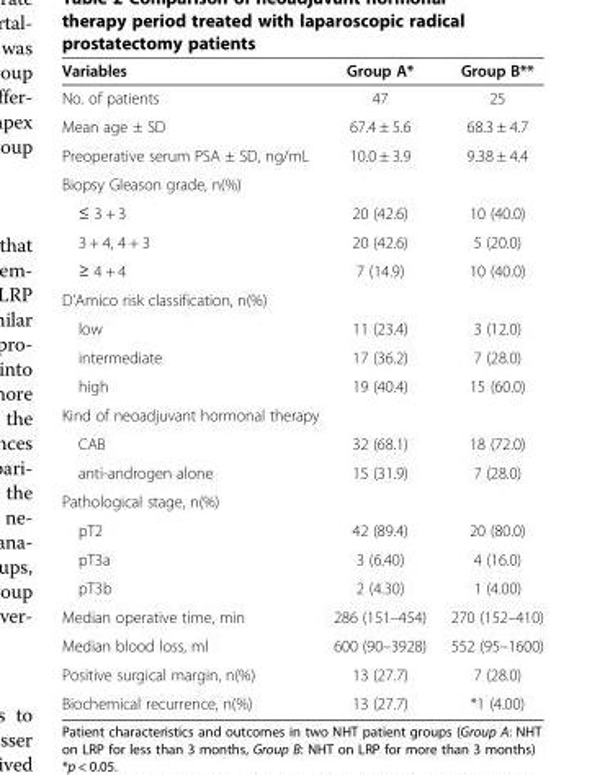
<table><thead><tr><td>Variables</td><td>Group A*</td><td>Group B**</td></tr></thead><tbody><tr><td>No. of patients</td><td>47</td><td>25</td></tr><tr><td>Mean age ± SD</td><td>67.4 ± 5.6</td><td>68.3 ± 4.7</td></tr><tr><td>Preoperative serum PSA ± SD, ng/mL</td><td>10.0 ± 3.9</td><td>9.38 ± 4.4</td></tr><tr><td colspan="3">Biopsy Gleason grade, n(%)</td></tr><tr><td>≤ 3 + 3</td><td>20 (42.6)</td><td>10 (40.0)</td></tr><tr><td>3 + 4, 4 + 3</td><td>20 (42.6)</td><td>5 (20.0)</td></tr><tr><td>≥ 4 + 4</td><td>7 (14.9)</td><td>10 (40.0)</td></tr><tr><td colspan="3">D’Amico risk classification, n(%)</td></tr><tr><td>low</td><td>11 (23.4)</td><td>3 (12.0)</td></tr><tr><td>intermediate</td><td>17 (36.2)</td><td>7 (28.0)</td></tr><tr><td>high</td><td>19 (40.4)</td><td>15 (60.0)</td></tr><tr><td colspan="3">Kind of neoadjuvant hormonal therapy</td></tr><tr><td>CAB</td><td>32 (68.1)</td><td>18 (72.0)</td></tr><tr><td>anti-androgen alone</td><td>15 (31.9)</td><td>7 (28.0)</td></tr><tr><td colspan="3">Pathological stage, n(%)</td></tr><tr><td>pT2</td><td>42 (89.4)</td><td>20 (80.0)</td></tr><tr><td>pT3a</td><td>3 (6.40)</td><td>4 (16.0)</td></tr><tr><td>pT3b</td><td>2 (4.30)</td><td>1 (4.00)</td></tr><tr><td>Median operative time, min</td><td>286 (151–454)</td><td>270 (152–410)</td></tr><tr><td>Median blood loss, ml</td><td>600 (90–3928)</td><td>552 (95–1600)</td></tr><tr><td>Positive surgical margin, n(%)</td><td>13 (27.7)</td><td>7 (28.0)</td></tr><tr><td>Biochemical recurrence, n(%)</td><td>13 (27.7)</td><td>*1 (4.00)</td></tr></tbody></table>